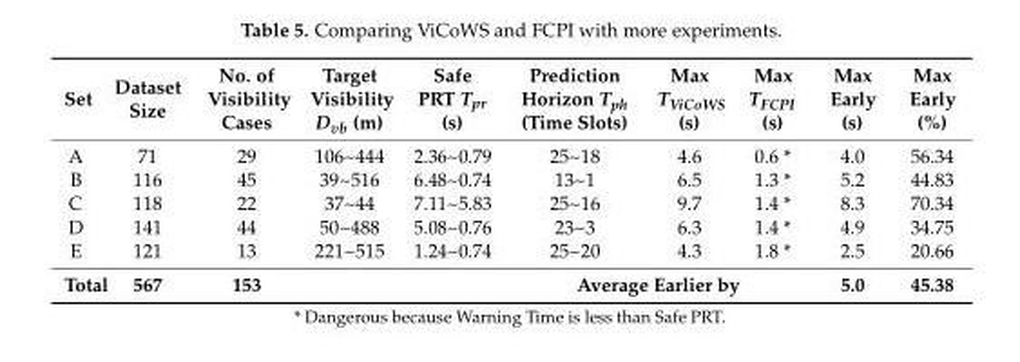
<table><thead><tr><td>Set</td><td>Dataset Size</td><td>No. of Visibility Cases</td><td>Target Visibility D<sub>vb</sub> (m)</td><td>Safe PRT T<sub>pr</sub> (s)</td><td>Prediction Horizon T<sub>ph</sub> (Time Slots)</td><td>Max T<sub>ViCoWS</sub> (s)</td><td>Max T<sub>FCPI</sub> (s)</td><td>Max Early (s)</td><td>Max Early (%)</td></tr></thead><tbody><tr><td>A</td><td>71</td><td>29</td><td>106~444</td><td>2.36~0.79</td><td>25~18</td><td>4.6</td><td>0.6 *</td><td>4.0</td><td>56.34</td></tr><tr><td>B</td><td>116</td><td>45</td><td>39~516</td><td>6.48~0.74</td><td>13~1</td><td>6.5</td><td>1.3 *</td><td>5.2</td><td>44.83</td></tr><tr><td>C</td><td>118</td><td>22</td><td>37~44</td><td>7.11~5.83</td><td>25~16</td><td>9.7</td><td>1.4 *</td><td>8.3</td><td>70.34</td></tr><tr><td>D</td><td>141</td><td>44</td><td>50~488</td><td>5.08~0.76</td><td>23~3</td><td>6.3</td><td>1.4 *</td><td>4.9</td><td>34.75</td></tr><tr><td>E</td><td>121</td><td>13</td><td>221~515</td><td>1.24~0.74</td><td>25~20</td><td>4.3</td><td>1.8 *</td><td>2.5</td><td>20.66</td></tr><tr><td>Total</td><td>567</td><td>153</td><td></td><td></td><td colspan="3">Average Earlier by</td><td>5.0</td><td>45.38</td></tr></tbody></table>